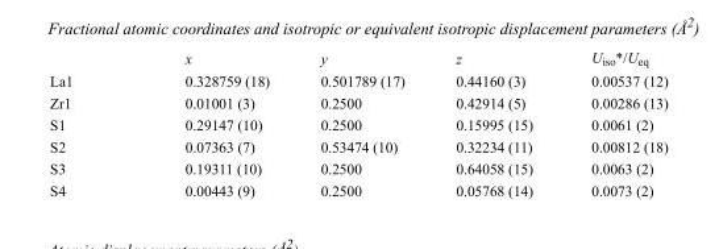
<table><thead><tr><td></td><td>x</td><td>y</td><td>z</td><td>U<sub>iso</sub>*/U<sub>eq</sub></td></tr></thead><tbody><tr><td>La1</td><td>0.328759 (18)</td><td>0.501789 (17)</td><td>0.44160 (3)</td><td>0.00537 (12)</td></tr><tr><td>Zr1</td><td>0.01001 (3)</td><td>0.2500</td><td>0.42914 (5)</td><td>0.00286 (13)</td></tr><tr><td>S1</td><td>0.29147 (10)</td><td>0.2500</td><td>0.15995 (15)</td><td>0.0061 (2)</td></tr><tr><td>S2</td><td>0.07363 (7)</td><td>0.53474 (10)</td><td>0.32234 (11)</td><td>0.00812 (18)</td></tr><tr><td>S3</td><td>0.19311 (10)</td><td>0.2500</td><td>0.64058 (15)</td><td>0.0063 (2)</td></tr><tr><td>S4</td><td>0.00443 (9)</td><td>0.2500</td><td>0.05768 (14)</td><td>0.0073 (2)</td></tr></tbody></table>